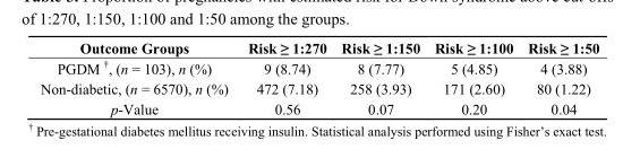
<table><thead><tr><td>Outcome Groups</td><td>Risk ≥ 1:270</td><td>Risk ≥ 1:150</td><td>Risk ≥ 1:100</td><td>Risk ≥ 1:50</td></tr></thead><tbody><tr><td>PGDM <sup>†</sup>, (n = 103), n (%)</td><td>9 (8.74)</td><td>8 (7.77)</td><td>5 (4.85)</td><td>4 (3.88)</td></tr><tr><td>Non-diabetic, (n = 6570), n (%)</td><td>472 (7.18)</td><td>258 (3.93)</td><td>171 (2.60)</td><td>80 (1.22)</td></tr><tr><td>p-Value</td><td>0.56</td><td>0.07</td><td>0.20</td><td>0.04</td></tr></tbody></table>